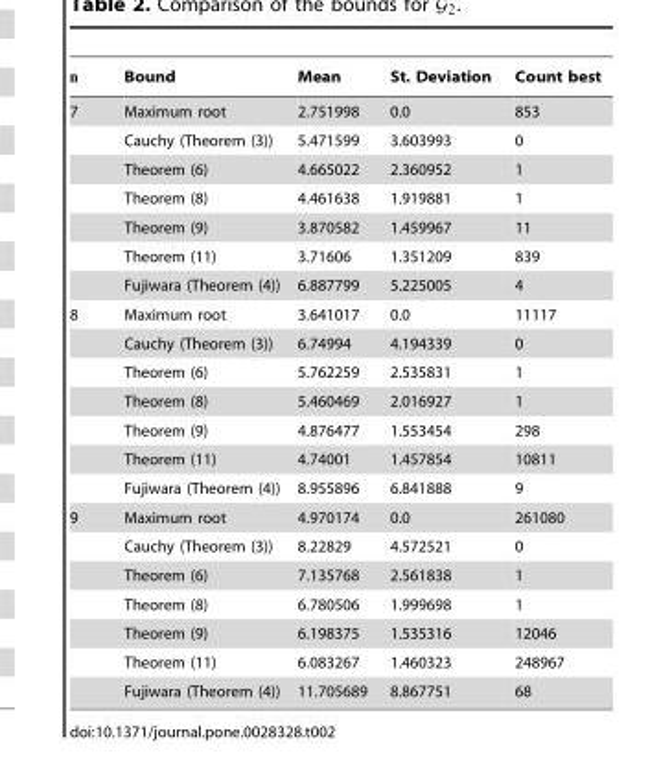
<table><thead><tr><td>n</td><td>Bound</td><td>Mean</td><td>St. Deviation</td><td>Count best</td></tr></thead><tbody><tr><td rowspan="7">7</td><td>Maximum root</td><td>2.751998</td><td>0.0</td><td>853</td></tr><tr><td>Cauchy (Theorem (3))</td><td>5.471599</td><td>3.603993</td><td>0</td></tr><tr><td>Theorem (6)</td><td>4.665022</td><td>2.360952</td><td>1</td></tr><tr><td>Theorem (8)</td><td>4.461638</td><td>1.919881</td><td>1</td></tr><tr><td>Theorem (9)</td><td>3.870582</td><td>1.459967</td><td>11</td></tr><tr><td>Theorem (11)</td><td>3.71606</td><td>1.351209</td><td>839</td></tr><tr><td>Fujiwara (Theorem (4))</td><td>6.887799</td><td>5.225005</td><td>4</td></tr><tr><td rowspan="7">8</td><td>Maximum root</td><td>3.641017</td><td>0.0</td><td>11117</td></tr><tr><td>Cauchy (Theorem (3))</td><td>6.74994</td><td>4.194339</td><td>0</td></tr><tr><td>Theorem (6)</td><td>5.762259</td><td>2.535831</td><td>1</td></tr><tr><td>Theorem (8)</td><td>5.460469</td><td>2.016927</td><td>1</td></tr><tr><td>Theorem (9)</td><td>4.876477</td><td>1.553454</td><td>298</td></tr><tr><td>Theorem (11)</td><td>4.74001</td><td>1.457854</td><td>10811</td></tr><tr><td>Fujiwara (Theorem (4))</td><td>8.955896</td><td>6.841888</td><td>9</td></tr><tr><td rowspan="7">9</td><td>Maximum root</td><td>4.970174</td><td>0.0</td><td>261080</td></tr><tr><td>Cauchy (Theorem (3))</td><td>8.22829</td><td>4.572521</td><td>0</td></tr><tr><td>Theorem (6)</td><td>7.135768</td><td>2.561838</td><td>1</td></tr><tr><td>Theorem (8)</td><td>6.780506</td><td>1.999698</td><td>1</td></tr><tr><td>Theorem (9)</td><td>6.198375</td><td>1.535316</td><td>12046</td></tr><tr><td>Theorem (11)</td><td>6.083267</td><td>1.460323</td><td>248967</td></tr><tr><td>Fujiwara (Theorem (4))</td><td>11.705689</td><td>8.867751</td><td>68</td></tr></tbody></table>